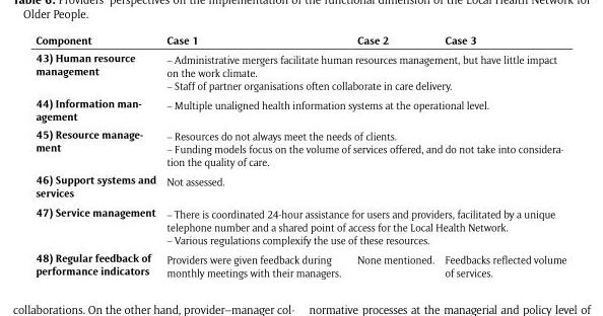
<table><thead><tr><td>Component</td><td>Case 1</td><td>Case 2</td><td>Case 3</td></tr></thead><tbody><tr><td>43) Human resource management</td><td colspan="3">– Administrative mergers facilitate human resources management, but have little impact on the work climate. – Staff of partner organisations often collaborate in care delivery.</td></tr><tr><td>44) Information man- agement</td><td colspan="3">– Multiple unaligned health information systems at the operational level.</td></tr><tr><td>45) Resource manage- ment</td><td colspan="3">– Resources do not always meet the needs of clients. – Funding models focus on the volume of services offered, and do not take into considera- tion the quality of care.</td></tr><tr><td>46) Support systems and services</td><td colspan="3">Not assessed.</td></tr><tr><td>47) Service management</td><td colspan="3">– There is coordinated 24-hour assistance for users and providers, facilitated by a unique telephone number and a shared point of access for the Local Health Network. – Various regulations complexify the use of these resources.</td></tr><tr><td>48) Regular feedback of performance indicators</td><td>Providers were given feedback during monthly meetings with their managers.</td><td>None mentioned.</td><td>Feedbacks reflected volume of services.</td></tr></tbody></table>